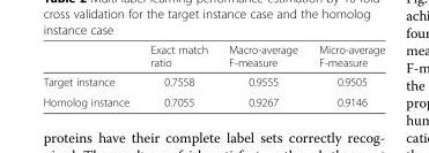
<table><thead><tr><td></td><td>Exact match ratio</td><td>Macro-average F-measure</td><td>Micro-average F-measure</td></tr></thead><tbody><tr><td>Target instance</td><td>0.7558</td><td>0.9555</td><td>0.9505</td></tr><tr><td>Homolog instance</td><td>0.7055</td><td>0.9267</td><td>0.9146</td></tr></tbody></table>